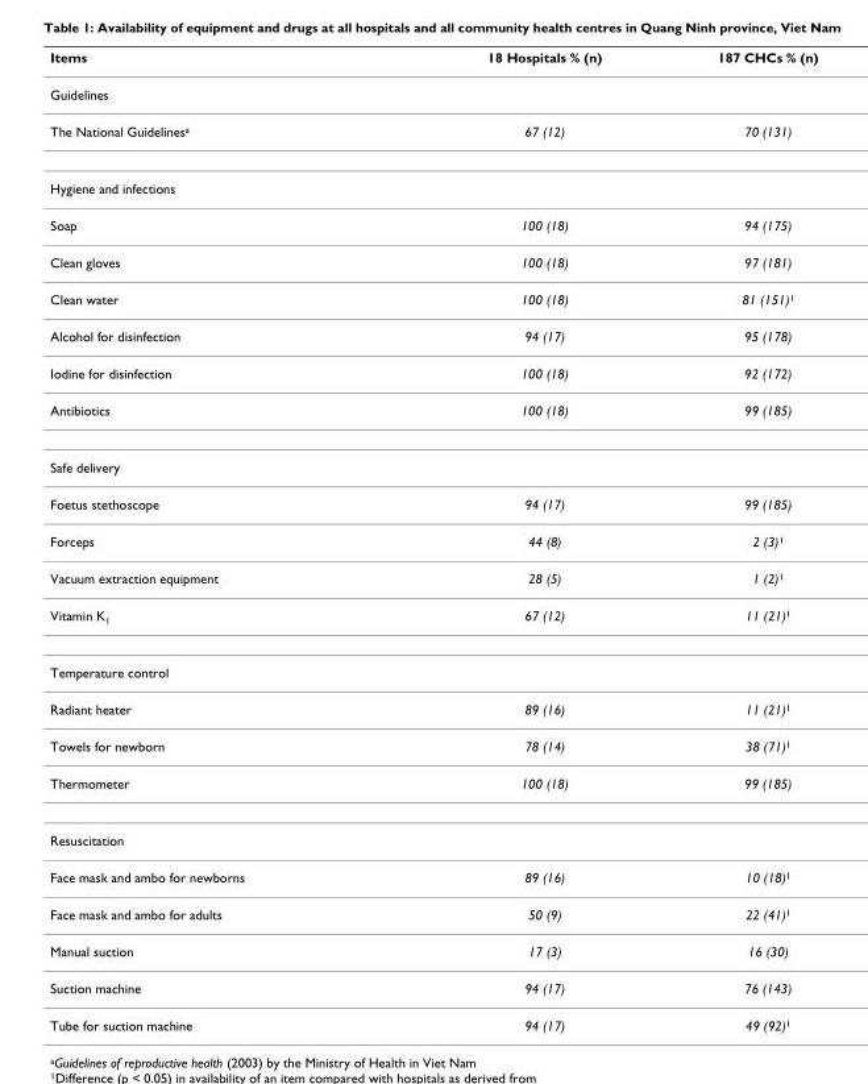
<table><thead><tr><td>Items</td><td>18 Hospitals % (n)</td><td>187 CHCs % (n)</td></tr></thead><tbody><tr><td colspan="3">Guidelines</td></tr><tr><td>The National Guidelines<sup>a</sup></td><td>67 (12)</td><td>70 (131)</td></tr><tr><td colspan="3">Hygiene and infections</td></tr><tr><td>Soap</td><td>100 (18)</td><td>94 (175)</td></tr><tr><td>Clean gloves</td><td>100 (18)</td><td>97 (181)</td></tr><tr><td>Clean water</td><td>100 (18)</td><td>81 (151)<sup>1</sup></td></tr><tr><td>Alcohol for disinfection</td><td>94 (17)</td><td>95 (178)</td></tr><tr><td>Iodine for disinfection</td><td>100 (18)</td><td>92 (172)</td></tr><tr><td>Antibiotics</td><td>100 (18)</td><td>99 (185)</td></tr><tr><td colspan="3">Safe delivery</td></tr><tr><td>Foetus stethoscope</td><td>94 (17)</td><td>99 (185)</td></tr><tr><td>Forceps</td><td>44 (8)</td><td>2 (3)<sup>1</sup></td></tr><tr><td>Vacuum extraction equipment</td><td>28 (5)</td><td>1 (2)<sup>1</sup></td></tr><tr><td>Vitamin K<sub>1</sub></td><td>67 (12)</td><td>11 (21)<sup>1</sup></td></tr><tr><td colspan="3">Temperature control</td></tr><tr><td>Radiant heater</td><td>89 (16)</td><td>11 (21)<sup>1</sup></td></tr><tr><td>Towels for newborn</td><td>78 (14)</td><td>38 (71)<sup>1</sup></td></tr><tr><td>Thermometer</td><td>100 (18)</td><td>99 (185)</td></tr><tr><td colspan="3">Resuscitation</td></tr><tr><td>Face mask and ambo for newborns</td><td>89 (16)</td><td>10 (18)<sup>1</sup></td></tr><tr><td>Face mask and ambo for adults</td><td>50 (9)</td><td>22 (41)<sup>1</sup></td></tr><tr><td>Manual suction</td><td>17 (3)</td><td>16 (30)</td></tr><tr><td>Suction machine</td><td>94 (17)</td><td>76 (143)</td></tr><tr><td>Tube for suction machine</td><td>94 (17)</td><td>49 (92)<sup>1</sup></td></tr></tbody></table>